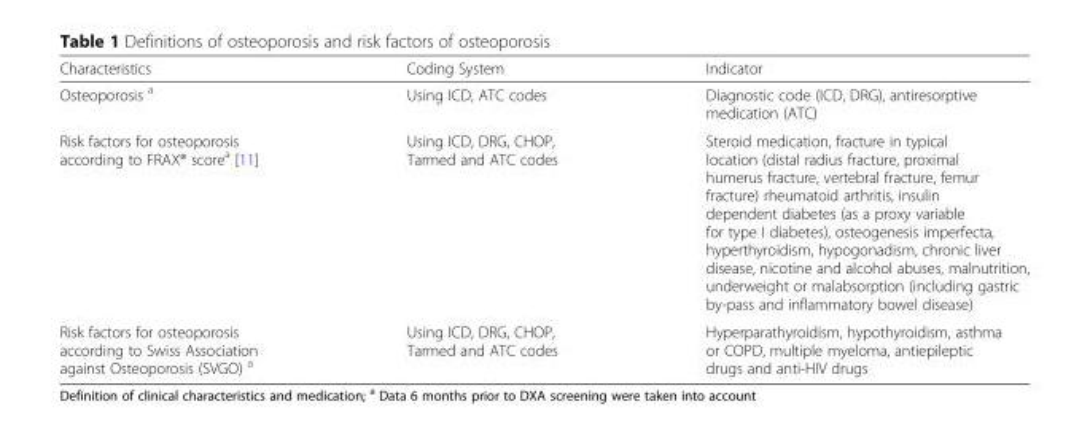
<table><thead><tr><td>Characteristics</td><td>Coding System</td><td>Indicator</td></tr></thead><tbody><tr><td>Osteoporosis <sup>a</sup></td><td>Using ICD, ATC codes</td><td>Diagnostic code (ICD, DRG), antiresorptive medication (ATC)</td></tr><tr><td>Risk factors for osteoporosis according to FRAX® score<sup>a</sup> [11]</td><td>Using ICD, DRG, CHOP, Tarmed and ATC codes</td><td>Steroid medication, fracture in typical location (distal radius fracture, proximal humerus fracture, vertebral fracture, femur fracture) rheumatoid arthritis, insulin dependent diabetes (as a proxy variable for type I diabetes), osteogenesis imperfecta, hyperthyroidism, hypogonadism, chronic liver disease, nicotine and alcohol abuses, malnutrition, underweight or malabsorption (including gastric by-pass and inflammatory bowel disease)</td></tr><tr><td>Risk factors for osteoporosis according to Swiss Association against Osteoporosis (SVGO) <sup>a</sup></td><td>Using ICD, DRG, CHOP, Tarmed and ATC codes</td><td>Hyperparathyroidism, hypothyroidism, asthma or COPD, multiple myeloma, antiepileptic drugs and anti-HIV drugs</td></tr></tbody></table>